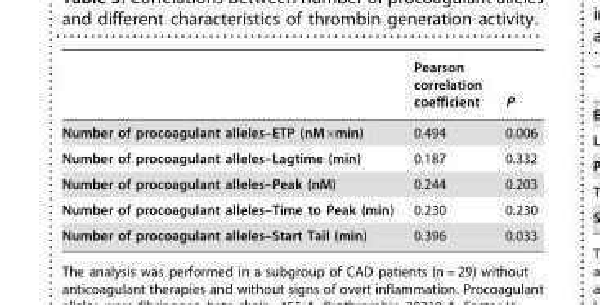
<table><thead><tr><td></td><td>Pearson correlation coefficient</td><td>P</td></tr></thead><tbody><tr><td>Number of procoagulant alleles–ETP (nM×min)</td><td>0.494</td><td>0.006</td></tr><tr><td>Number of procoagulant alleles–Lagtime (min)</td><td>0.187</td><td>0.332</td></tr><tr><td>Number of procoagulant alleles–Peak (nM)</td><td>0.244</td><td>0.203</td></tr><tr><td>Number of procoagulant alleles–Time to Peak (min)</td><td>0.230</td><td>0.230</td></tr><tr><td>Number of procoagulant alleles–Start Tail (min)</td><td>0.396</td><td>0.033</td></tr></tbody></table>